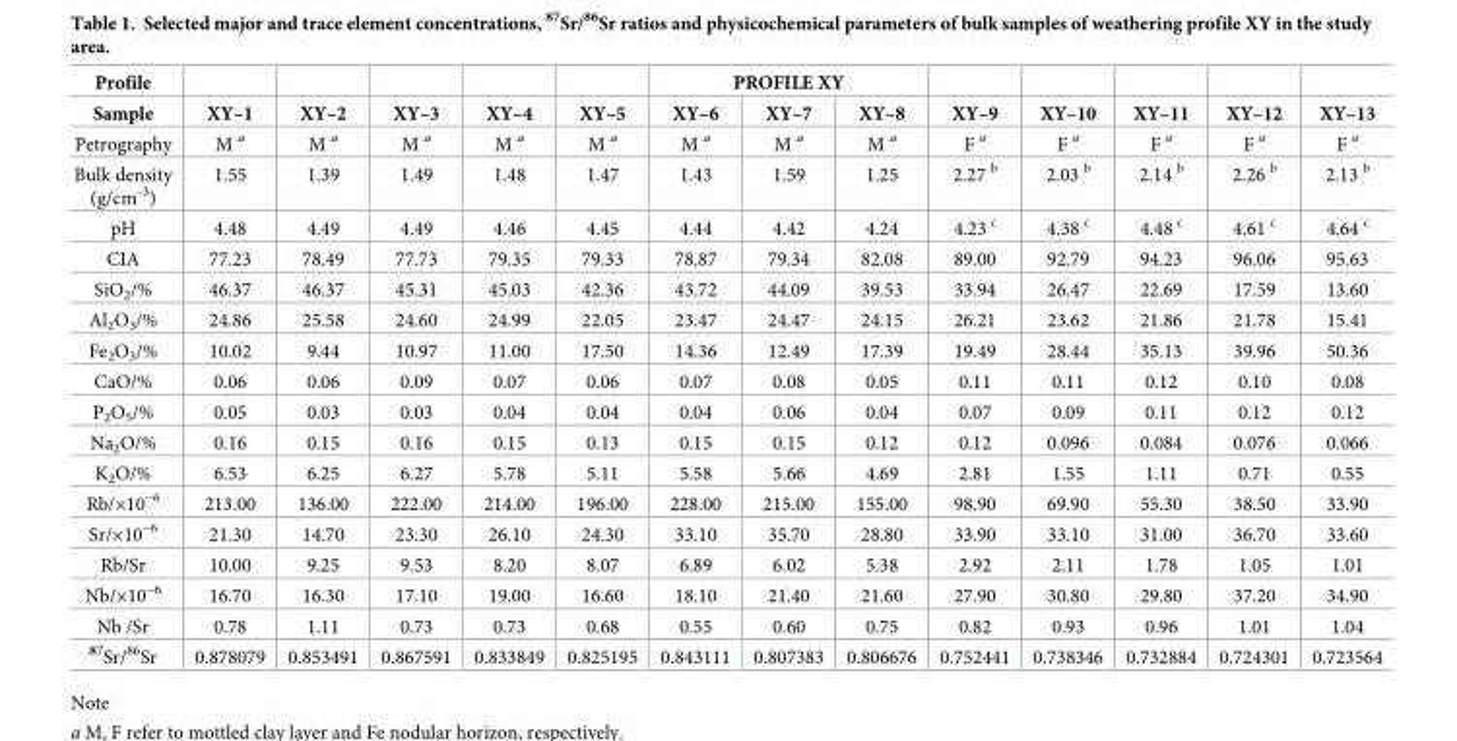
<table><thead><tr><td rowspan="2">Profile Sample</td><td rowspan="2">XY–1</td><td rowspan="2">XY–2</td><td rowspan="2">XY–3</td><td rowspan="2">XY–4</td><td rowspan="2">XY–5</td><td colspan="3">PROFILE XY</td><td rowspan="2">XY–9</td><td rowspan="2">XY–10</td><td rowspan="2">XY–11</td><td rowspan="2">XY–12</td><td rowspan="2">XY–13</td></tr><tr><td>XY–6</td><td>XY–7</td><td>XY–8</td></tr></thead><tbody><tr><td>Petrography</td><td>M <sup>a</sup></td><td>M <sup>a</sup></td><td>M <sup>a</sup></td><td>M <sup>a</sup></td><td>M <sup>a</sup></td><td>M <sup>a</sup></td><td>M <sup>a</sup></td><td>M <sup>a</sup></td><td>F <sup>a</sup></td><td>F <sup>a</sup></td><td>F <sup>a</sup></td><td>F <sup>a</sup></td><td>F <sup>a</sup></td></tr><tr><td>Bulk density (g/cm<sup>-3</sup>)</td><td>1.55</td><td>1.39</td><td>1.49</td><td>1.48</td><td>1.47</td><td>1.43</td><td>1.59</td><td>1.25</td><td>2.27 <sup>b</sup></td><td>2.03 <sup>b</sup></td><td>2.14 <sup>b</sup></td><td>2.26 <sup>b</sup></td><td>2.13 <sup>b</sup></td></tr><tr><td>pH</td><td>4.48</td><td>4.49</td><td>4.49</td><td>4.46</td><td>4.45</td><td>4.44</td><td>4.42</td><td>4.24</td><td>4.23 <sup>c</sup></td><td>4.38 <sup>c</sup></td><td>4.48 <sup>c</sup></td><td>4.61 <sup>c</sup></td><td>4.64 <sup>c</sup></td></tr><tr><td>CIA</td><td>77.23</td><td>78.49</td><td>77.73</td><td>79.35</td><td>79.33</td><td>78.87</td><td>79.34</td><td>82.08</td><td>89.00</td><td>92.79</td><td>94.23</td><td>96.06</td><td>95.63</td></tr><tr><td>SiO<sub>2</sub>/%</td><td>46.37</td><td>46.37</td><td>45.31</td><td>45.03</td><td>42.36</td><td>43.72</td><td>44.09</td><td>39.53</td><td>33.94</td><td>26.47</td><td>22.69</td><td>17.59</td><td>13.60</td></tr><tr><td>Al<sub>2</sub>O<sub>3</sub>/%</td><td>24.86</td><td>25.58</td><td>24.60</td><td>24.99</td><td>22.05</td><td>23.47</td><td>24.47</td><td>24.15</td><td>26.21</td><td>23.62</td><td>21.86</td><td>21.78</td><td>15.41</td></tr><tr><td>Fe<sub>2</sub>O<sub>3</sub>/%</td><td>10.02</td><td>9.44</td><td>10.97</td><td>11.00</td><td>17.50</td><td>14.36</td><td>12.49</td><td>17.39</td><td>19.49</td><td>28.44</td><td>35.13</td><td>39.96</td><td>50.36</td></tr><tr><td>CaO/%</td><td>0.06</td><td>0.06</td><td>0.09</td><td>0.07</td><td>0.06</td><td>0.07</td><td>0.08</td><td>0.05</td><td>0.11</td><td>0.11</td><td>0.12</td><td>0.10</td><td>0.08</td></tr><tr><td>P<sub>2</sub>O<sub>5</sub>/%</td><td>0.05</td><td>0.03</td><td>0.03</td><td>0.04</td><td>0.04</td><td>0.04</td><td>0.06</td><td>0.04</td><td>0.07</td><td>0.09</td><td>0.11</td><td>0.12</td><td>0.12</td></tr><tr><td>Na<sub>2</sub>O/%</td><td>0.16</td><td>0.15</td><td>0.16</td><td>0.15</td><td>0.13</td><td>0.15</td><td>0.15</td><td>0.12</td><td>0.12</td><td>0.096</td><td>0.084</td><td>0.076</td><td>0.066</td></tr><tr><td>K<sub>2</sub>O/%</td><td>6.53</td><td>6.25</td><td>6.27</td><td>5.78</td><td>5.11</td><td>5.58</td><td>5.66</td><td>4.69</td><td>2.81</td><td>1.55</td><td>1.11</td><td>0.71</td><td>0.55</td></tr><tr><td>Rb/×10<sup>−6</sup></td><td>213.00</td><td>136.00</td><td>222.00</td><td>214.00</td><td>196.00</td><td>228.00</td><td>215.00</td><td>155.00</td><td>98.90</td><td>69.90</td><td>55.30</td><td>38.50</td><td>33.90</td></tr><tr><td>Sr/×10<sup>−6</sup></td><td>21.30</td><td>14.70</td><td>23.30</td><td>26.10</td><td>24.30</td><td>33.10</td><td>35.70</td><td>28.80</td><td>33.90</td><td>33.10</td><td>31.00</td><td>36.70</td><td>33.60</td></tr><tr><td>Rb/Sr</td><td>10.00</td><td>9.25</td><td>9.53</td><td>8.20</td><td>8.07</td><td>6.89</td><td>6.02</td><td>5.38</td><td>2.92</td><td>2.11</td><td>1.78</td><td>1.05</td><td>1.01</td></tr><tr><td>Nb/×10<sup>−6</sup></td><td>16.70</td><td>16.30</td><td>17.10</td><td>19.00</td><td>16.60</td><td>18.10</td><td>21.40</td><td>21.60</td><td>27.90</td><td>30.80</td><td>29.80</td><td>37.20</td><td>34.90</td></tr><tr><td>Nb /Sr</td><td>0.78</td><td>1.11</td><td>0.73</td><td>0.73</td><td>0.68</td><td>0.55</td><td>0.60</td><td>0.75</td><td>0.82</td><td>0.93</td><td>0.96</td><td>1.01</td><td>1.04</td></tr><tr><td><sup>87</sup>Sr/<sup>86</sup>Sr</td><td>0.878079</td><td>0.853491</td><td>0.867591</td><td>0.833849</td><td>0.825195</td><td>0.843111</td><td>0.807383</td><td>0.806676</td><td>0.752441</td><td>0.738346</td><td>0.732884</td><td>0.724301</td><td>0.723564</td></tr></tbody></table>